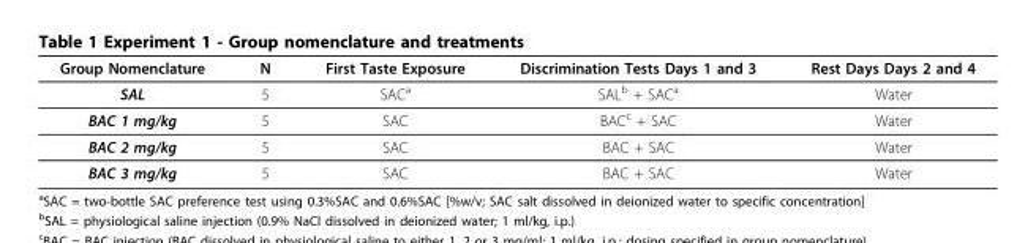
<table><thead><tr><td>Group Nomenclature</td><td>N</td><td>First Taste Exposure</td><td>Discrimination Tests Days 1 and 3</td><td>Rest Days Days 2 and 4</td></tr></thead><tbody><tr><td>SAL</td><td>5</td><td>SAC<sup>a</sup></td><td>SAL<sup>b</sup> + SAC<sup>a</sup></td><td>Water</td></tr><tr><td>BAC 1 mg/kg</td><td>5</td><td>SAC</td><td>BAC<sup>c</sup> + SAC</td><td>Water</td></tr><tr><td>BAC 2 mg/kg</td><td>5</td><td>SAC</td><td>BAC + SAC</td><td>Water</td></tr><tr><td>BAC 3 mg/kg</td><td>5</td><td>SAC</td><td>BAC + SAC</td><td>Water</td></tr></tbody></table>